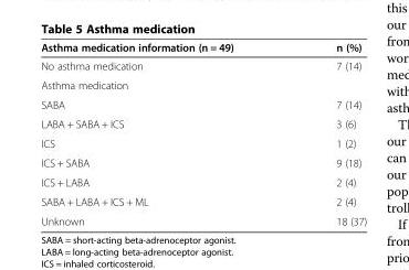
<table><thead><tr><td>Asthma medication information (n = 49)</td><td>n (%)</td></tr></thead><tbody><tr><td>No asthma medication</td><td>7 (14)</td></tr><tr><td colspan="2">Asthma medication</td></tr><tr><td>SABA</td><td>7 (14)</td></tr><tr><td>LABA + SABA + ICS</td><td>3 (6)</td></tr><tr><td>ICS</td><td>1 (2)</td></tr><tr><td>ICS + SABA</td><td>9 (18)</td></tr><tr><td>ICS + LABA</td><td>2 (4)</td></tr><tr><td>SABA + LABA + ICS + ML</td><td>2 (4)</td></tr><tr><td>Unknown</td><td>18 (37)</td></tr></tbody></table>